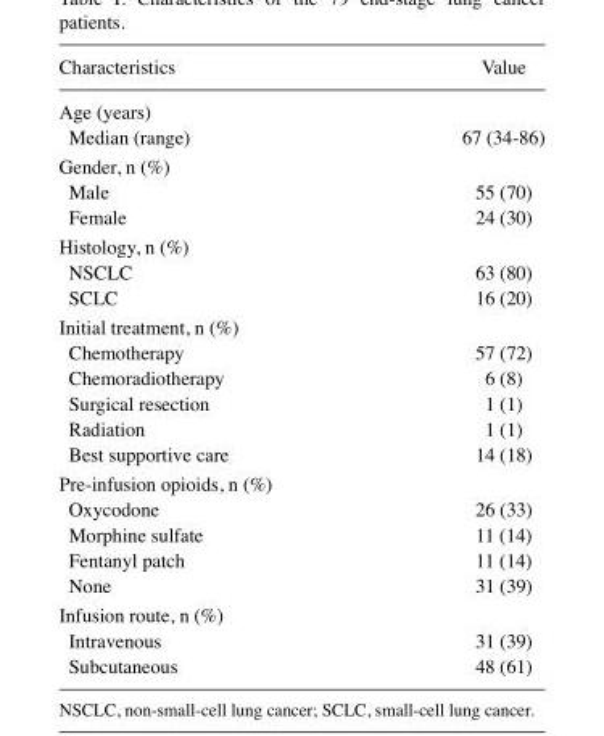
<table><thead><tr><td>Characteristics</td><td>Value</td></tr></thead><tbody><tr><td colspan="2">Age (years)</td></tr><tr><td>Median (range)</td><td>67 (34-86)</td></tr><tr><td colspan="2">Gender, n (%)</td></tr><tr><td>Male</td><td>55 (70)</td></tr><tr><td>Female</td><td>24 (30)</td></tr><tr><td colspan="2">Histology, n (%)</td></tr><tr><td>NSCLC</td><td>63 (80)</td></tr><tr><td>SCLC</td><td>16 (20)</td></tr><tr><td colspan="2">Initial treatment, n (%)</td></tr><tr><td>Chemotherapy</td><td>57 (72)</td></tr><tr><td>Chemoradiotherapy</td><td>6 (8)</td></tr><tr><td>Surgical resection</td><td>1 (1)</td></tr><tr><td>Radiation</td><td>1 (1)</td></tr><tr><td>Best supportive care</td><td>14 (18)</td></tr><tr><td colspan="2">Pre-infusion opioids, n (%)</td></tr><tr><td>Oxycodone</td><td>26 (33)</td></tr><tr><td>Morphine sulfate</td><td>11 (14)</td></tr><tr><td>Fentanyl patch</td><td>11 (14)</td></tr><tr><td>None</td><td>31 (39)</td></tr><tr><td colspan="2">Infusion route, n (%)</td></tr><tr><td>Intravenous</td><td>31 (39)</td></tr><tr><td>Subcutaneous</td><td>48 (61)</td></tr></tbody></table>